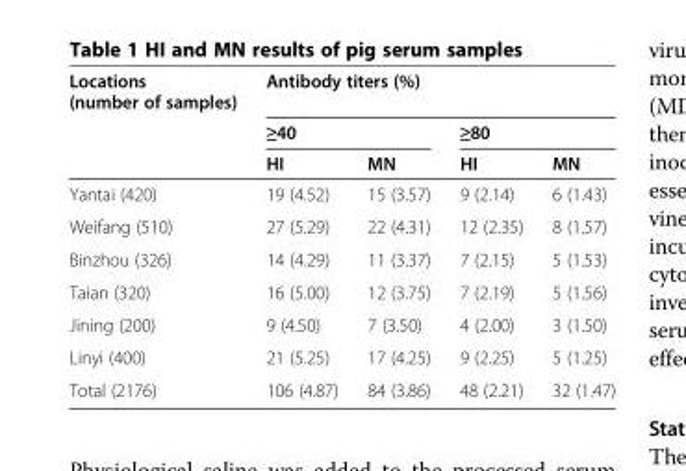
<table><thead><tr><td rowspan="3">Locations (number of samples)</td><td colspan="4">Antibody titers (%)</td></tr><tr><td colspan="2">≥40</td><td colspan="2">≥80</td></tr><tr><td>HI</td><td>MN</td><td>HI</td><td>MN</td></tr></thead><tbody><tr><td>Yantai (420)</td><td>19 (4.52)</td><td>15 (3.57)</td><td>9 (2.14)</td><td>6 (1.43)</td></tr><tr><td>Weifang (510)</td><td>27 (5.29)</td><td>22 (4.31)</td><td>12 (2.35)</td><td>8 (1.57)</td></tr><tr><td>Binzhou (326)</td><td>14 (4.29)</td><td>11 (3.37)</td><td>7 (2.15)</td><td>5 (1.53)</td></tr><tr><td>Taian (320)</td><td>16 (5.00)</td><td>12 (3.75)</td><td>7 (2.19)</td><td>5 (1.56)</td></tr><tr><td>Jining (200)</td><td>9 (4.50)</td><td>7 (3.50)</td><td>4 (2.00)</td><td>3 (1.50)</td></tr><tr><td>Linyi (400)</td><td>21 (5.25)</td><td>17 (4.25)</td><td>9 (2.25)</td><td>5 (1.25)</td></tr><tr><td>Total (2176)</td><td>106 (4.87)</td><td>84 (3.86)</td><td>48 (2.21)</td><td>32 (1.47)</td></tr></tbody></table>